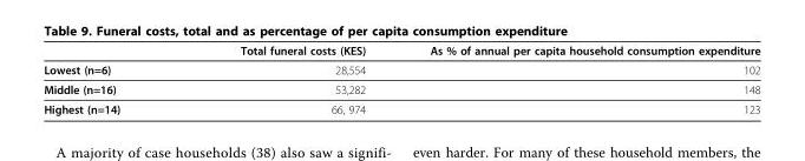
<table><thead><tr><td></td><td>Total funeral costs (KES)</td><td>As % of annual per capita household consumption expenditure</td></tr></thead><tbody><tr><td>Lowest (n=6)</td><td>28,554</td><td>102</td></tr><tr><td>Middle (n=16)</td><td>53,282</td><td>148</td></tr><tr><td>Highest (n=14)</td><td>66, 974</td><td>123</td></tr></tbody></table>